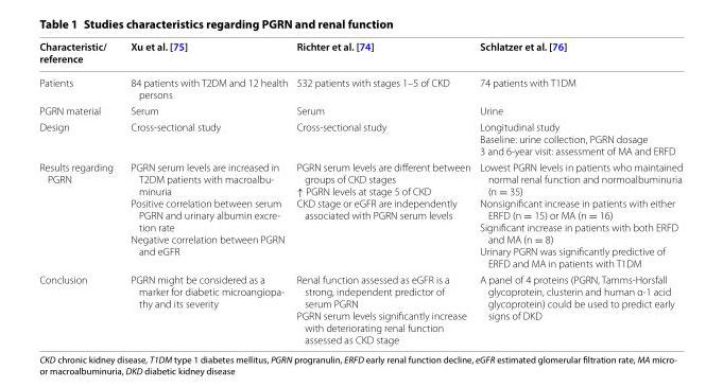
<table><thead><tr><td>Characteristic/ reference</td><td>Xu et al. [75]</td><td>Richter et al. [74]</td><td>Schlatzer et al. [76]</td></tr></thead><tbody><tr><td>Patients</td><td>84 patients with T2DM and 12 health persons</td><td>532 patients with stages 1–5 of CKD</td><td>74 patients with T1DM</td></tr><tr><td>PGRN material</td><td>Serum</td><td>Serum</td><td>Urine</td></tr><tr><td>Design</td><td>Cross-sectional study</td><td>Cross-sectional study</td><td>Longitudinal study Baseline: urine collection, PGRN dosage 3 and 6-year visit: assessment of MA and ERFD</td></tr><tr><td>Results regarding PGRN</td><td>PGRN serum levels are increased in T2DM patients with macroalbu- minuria Positive correlation between serum PGRN and urinary albumin excre- tion rate Negative correlation between PGRN and eGFR</td><td>PGRN serum levels are different between groups of CKD stages ↑ PGRN levels at stage 5 of CKD CKD stage or eGFR are independently associated with PGRN serum levels</td><td>Lowest PGRN levels in patients who maintained normal renal function and normoalbuminuria (n = 35) Nonsignificant increase in patients with either ERFD (n = 15) or MA (n = 16) Significant increase in patients with both ERFD and MA (n = 8) Urinary PGRN was significantly predictive of ERFD and MA in patients with T1DM</td></tr><tr><td>Conclusion</td><td>PGRN might be considered as a marker for diabetic microangiopa- thy and its severity</td><td>Renal function assessed as eGFR is a strong, independent predictor of serum PGRN PGRN serum levels significantly increase with deteriorating renal function assessed as CKD stage</td><td>A panel of 4 proteins (PGRN, Tamms-Horsfall glycoprotein, clusterin and human α-1 acid glycoprotein) could be used to predict early signs of DKD</td></tr></tbody></table>